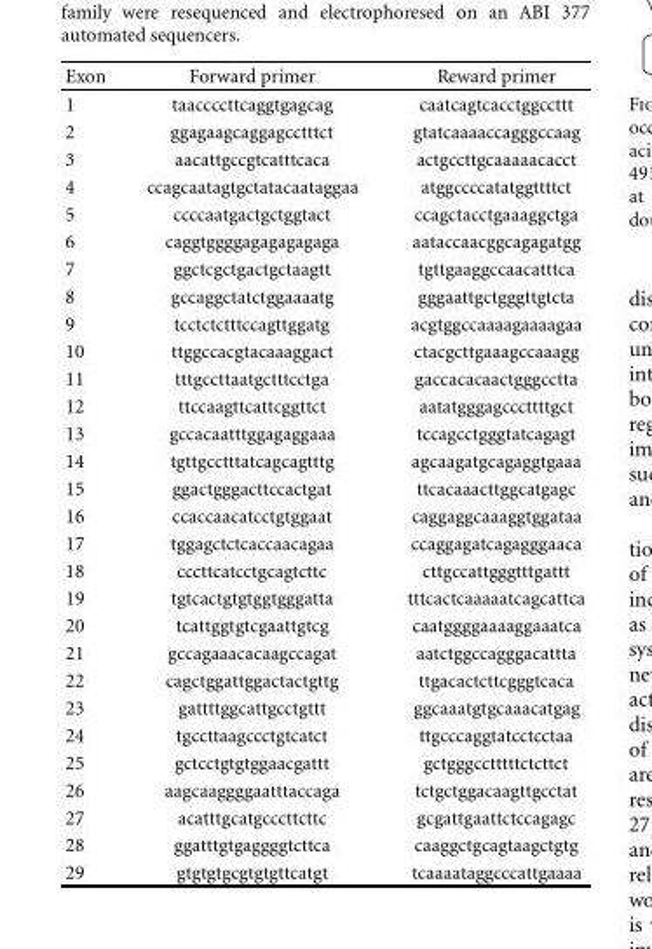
<table><thead><tr><td>Exon</td><td>Forward primer</td><td>Reward primer</td></tr></thead><tbody><tr><td>1</td><td>taaccccttcaggtgagcag</td><td>caatcagtcacctggccttt</td></tr><tr><td>2</td><td>ggagaagcaggagcctttct</td><td>gtatcaaaaccagggccaag</td></tr><tr><td>3</td><td>aacattgccgtcatttcaca</td><td>actgccttgcaaaaacacct</td></tr><tr><td>4</td><td>ccagcaatagtgctatacaataggaa</td><td>atggccccatatggttttct</td></tr><tr><td>5</td><td>ccccaatgactgctggtact</td><td>ccagctacctgaaaggctga</td></tr><tr><td>6</td><td>caggtggggagagagagaga</td><td>aataccaacggcagagatgg</td></tr><tr><td>7</td><td>ggctcgctgactgctaagtt</td><td>tgttgaaggccaacatttca</td></tr><tr><td>8</td><td>gccaggctatctggaaaatg</td><td>gggaattgctgggttgtcta</td></tr><tr><td>9</td><td>tcctctctttccagttggatg</td><td>acgtggccaaaagaaaagaa</td></tr><tr><td>10</td><td>ttggccacgtacaaaggact</td><td>ctacgcttgaaagccaaagg</td></tr><tr><td>11</td><td>tttgccttaatgctttcctga</td><td>gaccacacaactgggcctta</td></tr><tr><td>12</td><td>ttccaagttcattcggttct</td><td>aatatgggagcccttttgct</td></tr><tr><td>13</td><td>gccacaatttggagaggaaa</td><td>tccagcctgggtatcagagt</td></tr><tr><td>14</td><td>tgttgcctttatcagcagtttg</td><td>agcaagatgcagaggtgaaa</td></tr><tr><td>15</td><td>ggactgggacttccactgat</td><td>ttcacaaacttggcatgagc</td></tr><tr><td>16</td><td>ccaccaacatcctgtggaat</td><td>caggaggcaaaggtggataa</td></tr><tr><td>17</td><td>tggagctctcaccaacagaa</td><td>ccaggagatcagagggaaca</td></tr><tr><td>18</td><td>cccttcatcctgcagtcttc</td><td>cttgccattgggtttgattt</td></tr><tr><td>19</td><td>tgtcactgtgtggtgggatta</td><td>tttcactcaaaaatcagcattca</td></tr><tr><td>20</td><td>tcattggtgtcgaattgtcg</td><td>caatggggaaaaggaaatca</td></tr><tr><td>21</td><td>gccagaaacacaagccagat</td><td>aatctggccagggacattta</td></tr><tr><td>22</td><td>cagctggattggactactgttg</td><td>ttgacactcttcgggtcaca</td></tr><tr><td>23</td><td>gattttggcattgcctgttt</td><td>ggcaaatgtgcaaacatgag</td></tr><tr><td>24</td><td>tgccttaagccctgtcatct</td><td>ttgcccaggtatcctcctaa</td></tr><tr><td>25</td><td>gctcctgtgtggaacgattt</td><td>gctgggcctttttctcttct</td></tr><tr><td>26</td><td>aagcaaggggaatttaccaga</td><td>tctgctggacaagttgcctat</td></tr><tr><td>27</td><td>acatttgcatgcccttcttc</td><td>gcgattgaattctccagagc</td></tr><tr><td>28</td><td>ggatttgtgaggggtcttca</td><td>caaggctgcagtaagctgtg</td></tr><tr><td>29</td><td>gtgtgtgcgtgtgttcatgt</td><td>tcaaaataggcccattgaaaa</td></tr></tbody></table>